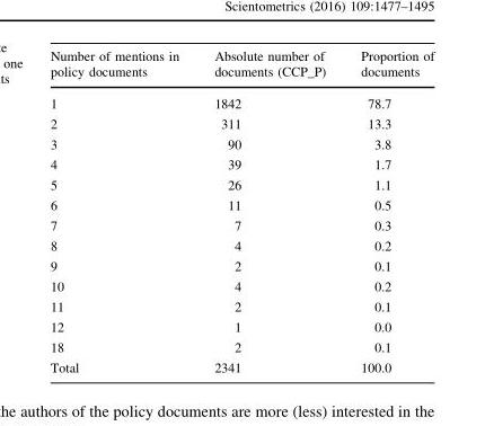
<table><thead><tr><td>Number of mentions in policy documents</td><td>Absolute number of documents (CCP_P)</td><td>Proportion of documents</td></tr></thead><tbody><tr><td>1</td><td>1842</td><td>78.7</td></tr><tr><td>2</td><td>311</td><td>13.3</td></tr><tr><td>3</td><td>90</td><td>3.8</td></tr><tr><td>4</td><td>39</td><td>1.7</td></tr><tr><td>5</td><td>26</td><td>1.1</td></tr><tr><td>6</td><td>11</td><td>0.5</td></tr><tr><td>7</td><td>7</td><td>0.3</td></tr><tr><td>8</td><td>4</td><td>0.2</td></tr><tr><td>9</td><td>2</td><td>0.1</td></tr><tr><td>10</td><td>4</td><td>0.2</td></tr><tr><td>11</td><td>2</td><td>0.1</td></tr><tr><td>12</td><td>1</td><td>0.0</td></tr><tr><td>18</td><td>2</td><td>0.1</td></tr><tr><td>Total</td><td>2341</td><td>100.0</td></tr></tbody></table>